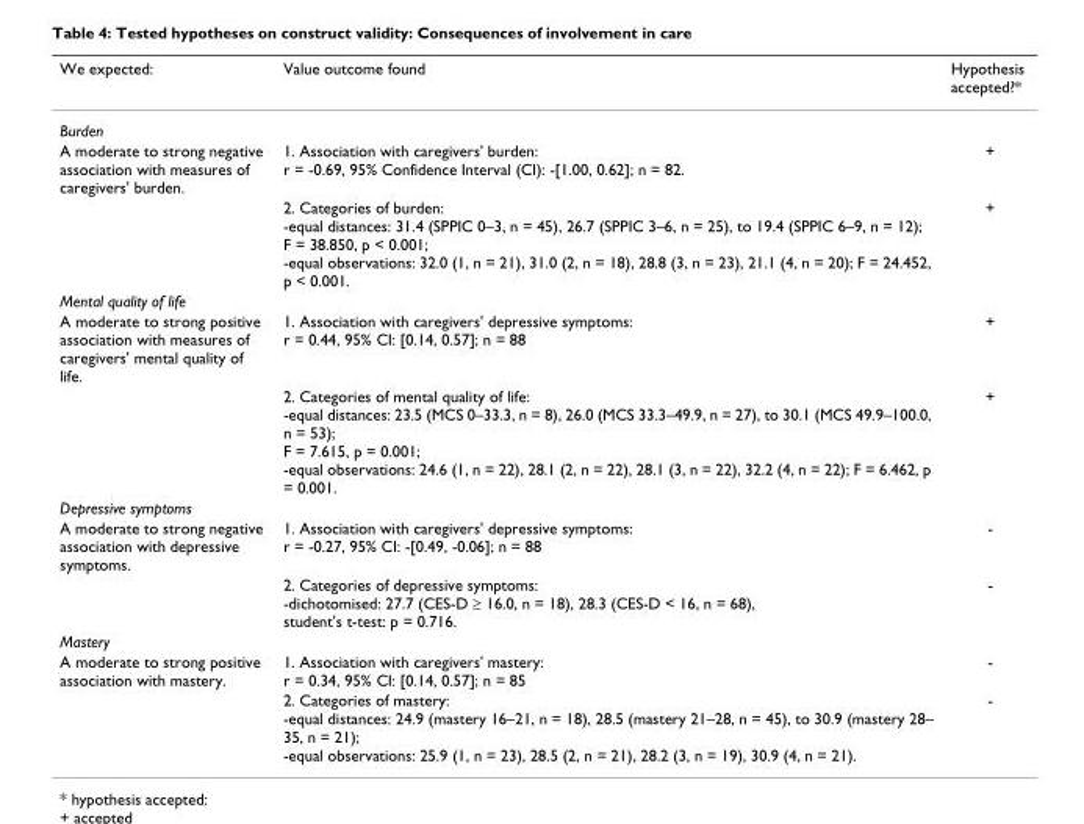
<table><thead><tr><td>We expected:</td><td>Value outcome found</td><td>Hypothesis accepted?*</td></tr></thead><tbody><tr><td colspan="3">Burden</td></tr><tr><td rowspan="2">A moderate to strong negative association with measures of caregivers&#x27; burden.</td><td>1. Association with caregivers&#x27; burden: r = -0.69, 95% Confidence Interval (CI): -[1.00, 0.62]; n = 82.</td><td>+</td></tr><tr><td>2. Categories of burden: -equal distances: 31.4 (SPPIC 0–3, n = 45), 26.7 (SPPIC 3–6, n = 25), to 19.4 (SPPIC 6–9, n = 12); F = 38.850, p &lt; 0.001; -equal observations: 32.0 (1, n = 21), 31.0 (2, n = 18), 28.8 (3, n = 23), 21.1 (4, n = 20); F = 24.452, p &lt; 0.001.</td><td>+</td></tr><tr><td colspan="3">Mental quality of life</td></tr><tr><td rowspan="2">A moderate to strong positive association with measures of caregivers&#x27; mental quality of life.</td><td>1. Association with caregivers&#x27; depressive symptoms: r = 0.44, 95% CI: [0.14, 0.57]; n = 88</td><td>+</td></tr><tr><td>2. Categories of mental quality of life: -equal distances: 23.5 (MCS 0–33.3, n = 8), 26.0 (MCS 33.3–49.9, n = 27), to 30.1 (MCS 49.9–100.0, n = 53); F = 7.615, p = 0.001; -equal observations: 24.6 (1, n = 22), 28.1 (2, n = 22), 28.1 (3, n = 22), 32.2 (4, n = 22); F = 6.462, p = 0.001.</td><td>+</td></tr><tr><td colspan="3">Depressive symptoms</td></tr><tr><td rowspan="2">A moderate to strong negative association with depressive symptoms.</td><td>1. Association with caregivers&#x27; depressive symptoms: r = -0.27, 95% CI: -[0.49, -0.06]; n = 88</td><td>-</td></tr><tr><td>2. Categories of depressive symptoms: -dichotomised: 27.7 (CES-D ≥ 16.0, n = 18), 28.3 (CES-D &lt; 16, n = 68), student&#x27;s t-test: p = 0.716.</td><td>-</td></tr><tr><td colspan="3">Mastery</td></tr><tr><td rowspan="2">A moderate to strong positive association with mastery.</td><td>1. Association with caregivers&#x27; mastery: r = 0.34, 95% CI: [0.14, 0.57]; n = 85</td><td>-</td></tr><tr><td>2. Categories of mastery: -equal distances: 24.9 (mastery 16–21, n = 18), 28.5 (mastery 21–28, n = 45), to 30.9 (mastery 28– 35, n = 21); -equal observations: 25.9 (1, n = 23), 28.5 (2, n = 21), 28.2 (3, n = 19), 30.9 (4, n = 21).</td><td>-</td></tr></tbody></table>